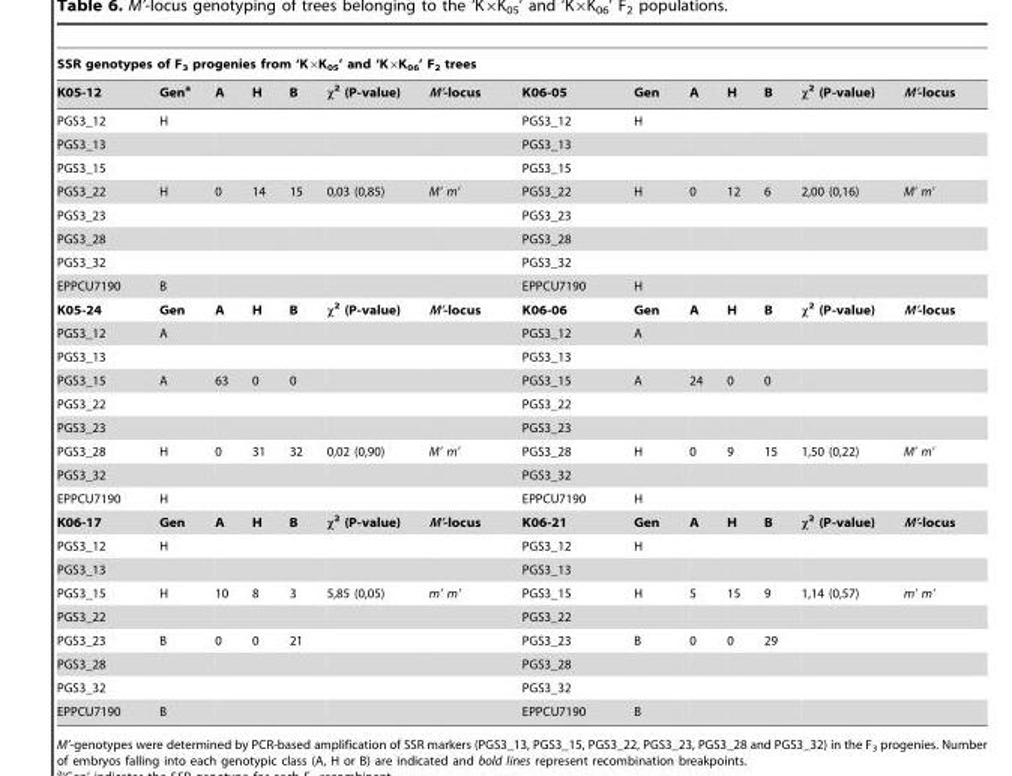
<table><thead><tr><td colspan="14">SSR genotypes of F<sub>3</sub> progenies from ‘K×K<sub>05</sub>’ and ‘K×K<sub>06</sub>’ F<sub>2</sub> trees</td></tr><tr><td>K05-12</td><td>Gen<sup>a</sup></td><td>A</td><td>H</td><td>B</td><td>x2 (P-value)</td><td>M’-locus</td><td>K06-05</td><td>Gen</td><td>A</td><td>H</td><td>B</td><td>x2 (P-value)</td><td>M’-locus</td></tr></thead><tbody><tr><td>PGS3_12</td><td>H</td><td></td><td></td><td></td><td></td><td></td><td>PGS3_12</td><td>H</td><td></td><td></td><td></td><td></td><td></td></tr><tr><td>PGS3_13</td><td></td><td></td><td></td><td></td><td></td><td></td><td>PGS3_13</td><td></td><td></td><td></td><td></td><td></td><td></td></tr><tr><td>PGS3_15</td><td></td><td></td><td></td><td></td><td></td><td></td><td>PGS3_15</td><td></td><td></td><td></td><td></td><td></td><td></td></tr><tr><td>PGS3_22</td><td>H</td><td>0</td><td>14</td><td>15</td><td>0,03 (0,85)</td><td>M’ m’</td><td>PGS3_22</td><td>H</td><td>0</td><td>12</td><td>6</td><td>2,00 (0,16)</td><td>M’ m’</td></tr><tr><td>PGS3_23</td><td></td><td></td><td></td><td></td><td></td><td></td><td>PGS3_23</td><td></td><td></td><td></td><td></td><td></td><td></td></tr><tr><td>PGS3_28</td><td></td><td></td><td></td><td></td><td></td><td></td><td>PGS3_28</td><td></td><td></td><td></td><td></td><td></td><td></td></tr><tr><td>PGS3_32</td><td></td><td></td><td></td><td></td><td></td><td></td><td>PGS3_32</td><td></td><td></td><td></td><td></td><td></td><td></td></tr><tr><td>EPPCU7190</td><td>B</td><td></td><td></td><td></td><td></td><td></td><td>EPPCU7190</td><td>H</td><td></td><td></td><td></td><td></td><td></td></tr><tr><td>K05-24</td><td>Gen</td><td>A</td><td>H</td><td>B</td><td>χ<sup>2</sup> (P-value)</td><td>M’-locus</td><td>K06-06</td><td>Gen</td><td>A</td><td>H</td><td>B</td><td>χ<sup>2</sup> (P-value)</td><td>M’-locus</td></tr><tr><td>PGS3_12</td><td>A</td><td></td><td></td><td></td><td></td><td></td><td>PGS3_12</td><td>A</td><td></td><td></td><td></td><td></td><td></td></tr><tr><td>PGS3_13</td><td></td><td></td><td></td><td></td><td></td><td></td><td>PGS3_13</td><td></td><td></td><td></td><td></td><td></td><td></td></tr><tr><td>PGS3_15</td><td>A</td><td>63</td><td>0</td><td>0</td><td></td><td></td><td>PGS3_15</td><td>A</td><td>24</td><td>0</td><td>0</td><td></td><td></td></tr><tr><td>PGS3_22</td><td></td><td></td><td></td><td></td><td></td><td></td><td>PGS3_22</td><td></td><td></td><td></td><td></td><td></td><td></td></tr><tr><td>PGS3_23</td><td></td><td></td><td></td><td></td><td></td><td></td><td>PGS3_23</td><td></td><td></td><td></td><td></td><td></td><td></td></tr><tr><td>PGS3_28</td><td>H</td><td>0</td><td>31</td><td>32</td><td>0,02 (0,90)</td><td>M’ m’</td><td>PGS3_28</td><td>H</td><td>0</td><td>9</td><td>15</td><td>1,50 (0,22)</td><td>M’ m’</td></tr><tr><td>PGS3_32</td><td></td><td></td><td></td><td></td><td></td><td></td><td>PGS3_32</td><td></td><td></td><td></td><td></td><td></td><td></td></tr><tr><td>EPPCU7190</td><td>H</td><td></td><td></td><td></td><td></td><td></td><td>EPPCU7190</td><td>H</td><td></td><td></td><td></td><td></td><td></td></tr><tr><td>K06-17</td><td>Gen</td><td>A</td><td>H</td><td>B</td><td>χ<sup>2</sup> (P-value)</td><td>M’-locus</td><td>K06-21</td><td>Gen</td><td>A</td><td>H</td><td>B</td><td>χ<sup>2</sup> (P-value)</td><td>M’-locus</td></tr><tr><td>PGS3_12</td><td>H</td><td></td><td></td><td></td><td></td><td></td><td>PGS3_12</td><td>H</td><td></td><td></td><td></td><td></td><td></td></tr><tr><td>PGS3_13</td><td></td><td></td><td></td><td></td><td></td><td></td><td>PGS3_13</td><td></td><td></td><td></td><td></td><td></td><td></td></tr><tr><td>PGS3_15</td><td>H</td><td>10</td><td>8</td><td>3</td><td>5,85 (0,05)</td><td>m’ m’</td><td>PGS3_15</td><td>H</td><td>5</td><td>15</td><td>9</td><td>1,14 (0,57)</td><td>m’ m’</td></tr><tr><td>PGS3_22</td><td></td><td></td><td></td><td></td><td></td><td></td><td>PGS3_22</td><td></td><td></td><td></td><td></td><td></td><td></td></tr><tr><td>PGS3_23</td><td>B</td><td>0</td><td>0</td><td>21</td><td></td><td></td><td>PGS3_23</td><td>B</td><td>0</td><td>0</td><td>29</td><td></td><td></td></tr><tr><td>PGS3_28</td><td></td><td></td><td></td><td></td><td></td><td></td><td>PGS3_28</td><td></td><td></td><td></td><td></td><td></td><td></td></tr><tr><td>PGS3_32</td><td></td><td></td><td></td><td></td><td></td><td></td><td>PGS3_32</td><td></td><td></td><td></td><td></td><td></td><td></td></tr><tr><td>EPPCU7190</td><td>B</td><td></td><td></td><td></td><td></td><td></td><td>EPPCU7190</td><td>B</td><td></td><td></td><td></td><td></td><td></td></tr></tbody></table>